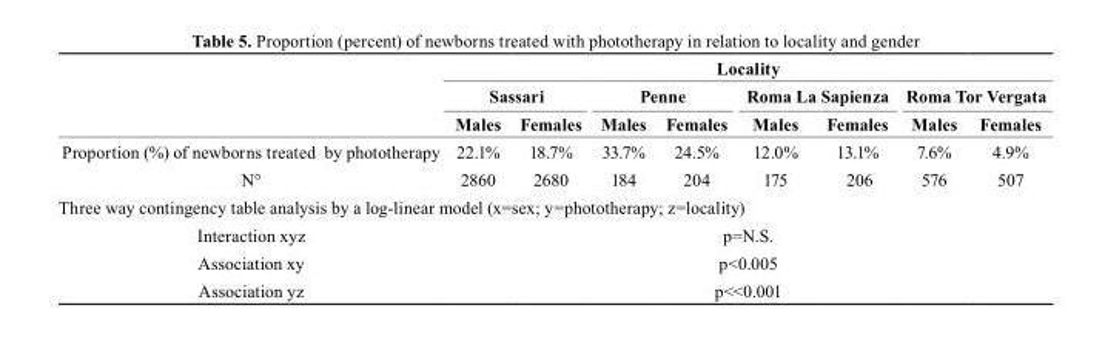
<table><thead><tr><td rowspan="3"></td><td colspan="8">locality</td></tr><tr><td colspan="2">sassari</td><td colspan="2">Penne</td><td colspan="2">roma la sapienza</td><td colspan="2">roma tor Vergata</td></tr><tr><td>Males</td><td>Females</td><td>Males</td><td>Females</td><td>Males</td><td>Females</td><td>Males</td><td>Females</td></tr></thead><tbody><tr><td>Proportion (%) of newborns treated by phototherapy</td><td>22.1%</td><td>18.7%</td><td>33.7%</td><td>24.5%</td><td>12.0%</td><td>13.1%</td><td>7.6%</td><td>4.9%</td></tr><tr><td>N°</td><td>2860</td><td>2680</td><td>184</td><td>204</td><td>175</td><td>206</td><td>576</td><td>507</td></tr><tr><td colspan="9">Three way contingency table analysis by a log-linear model (x=sex; y=phototherapy; z=locality)</td></tr><tr><td>Interaction xyz</td><td colspan="8">p=N.S.</td></tr><tr><td>Association xy</td><td colspan="8">p&lt;0.005</td></tr><tr><td>Association yz</td><td colspan="8">p&lt;&lt;0.001</td></tr></tbody></table>